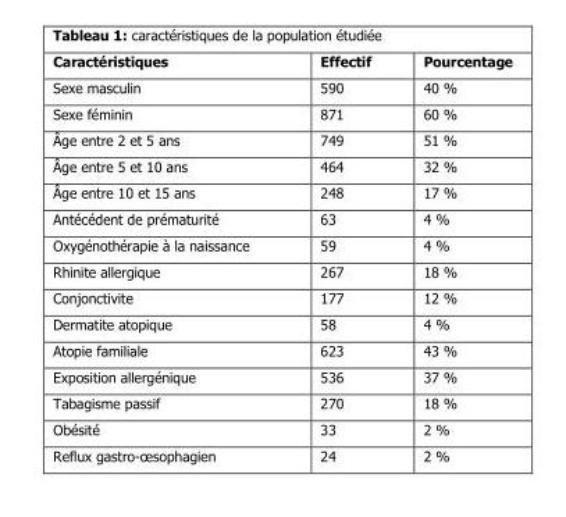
<table><thead><tr><td>Caractéristiques</td><td>Effectif</td><td>Pourcentage</td></tr></thead><tbody><tr><td>Sexe masculin</td><td>590</td><td>40 %</td></tr><tr><td>Sexe féminin</td><td>871</td><td>60 %</td></tr><tr><td>Âge entre 2 et 5 ans</td><td>749</td><td>51 %</td></tr><tr><td>Âge entre 5 et 10 ans</td><td>464</td><td>32 %</td></tr><tr><td>Âge entre 10 et 15 ans</td><td>248</td><td>17 %</td></tr><tr><td>Antécédent de prématurité</td><td>63</td><td>4 %</td></tr><tr><td>Oxygénothérapie à la naissance</td><td>59</td><td>4 %</td></tr><tr><td>Rhinite allergique</td><td>267</td><td>18 %</td></tr><tr><td>Conjonctivite</td><td>177</td><td>12 %</td></tr><tr><td>Dermatite atopique</td><td>58</td><td>4 %</td></tr><tr><td>Atopie familiale</td><td>623</td><td>43 %</td></tr><tr><td>Exposition allergénique</td><td>536</td><td>37 %</td></tr><tr><td>Tabagisme passif</td><td>270</td><td>18 %</td></tr><tr><td>Obésité</td><td>33</td><td>2 %</td></tr><tr><td>Reflux gastro-œsophagien</td><td>24</td><td>2 %</td></tr></tbody></table>